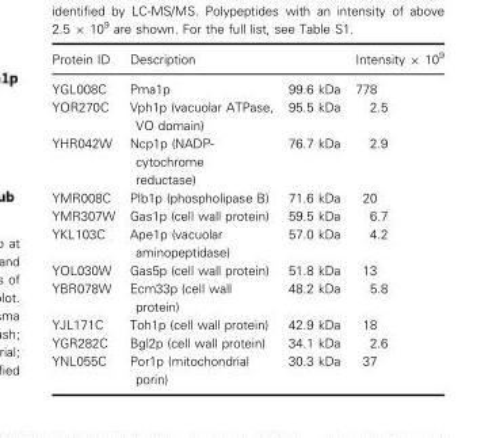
<table><thead><tr><td rowspan="2">Protein ID YGL008C</td><td colspan="2">Description</td><td rowspan="2">Intensity × 10<sup>9</sup> 778</td></tr><tr><td>Pma1p</td><td>99.6 kDa</td></tr></thead><tbody><tr><td>YOR270C</td><td>Vph1p (vacuolar ATPase, VO domain)</td><td>95.5 kDa</td><td>2.5</td></tr><tr><td>YHR042W</td><td>Ncp1p (NADP- cytochrome reductase)</td><td>76.7 kDa</td><td>2.9</td></tr><tr><td>YMR008C</td><td>Plb1p (phospholipase B)</td><td>71.6 kDa</td><td>20</td></tr><tr><td>YMR307W</td><td>Gas1p (cell wall protein)</td><td>59.5 kDa</td><td>6.7</td></tr><tr><td>YKL103C</td><td>Ape1p (vacuolar aminopeptidase)</td><td>57.0 kDa</td><td>4.2</td></tr><tr><td>YOL030W</td><td>Gas5p (cell wall protein)</td><td>51.8 kDa</td><td>13</td></tr><tr><td>YBR078W</td><td>Ecm33p (cell wall protein)</td><td>48.2 kDa</td><td>5.8</td></tr><tr><td>YJL171C</td><td>Toh1p (cell wall protein)</td><td>42.9 kDa</td><td>18</td></tr><tr><td>YGR282C</td><td>Bgl2p (cell wall protein)</td><td>34.1 kDa</td><td>2.6</td></tr><tr><td>YNL055C</td><td>Por1p (mitochondrial porin)</td><td>30.3 kDa</td><td>37</td></tr></tbody></table>